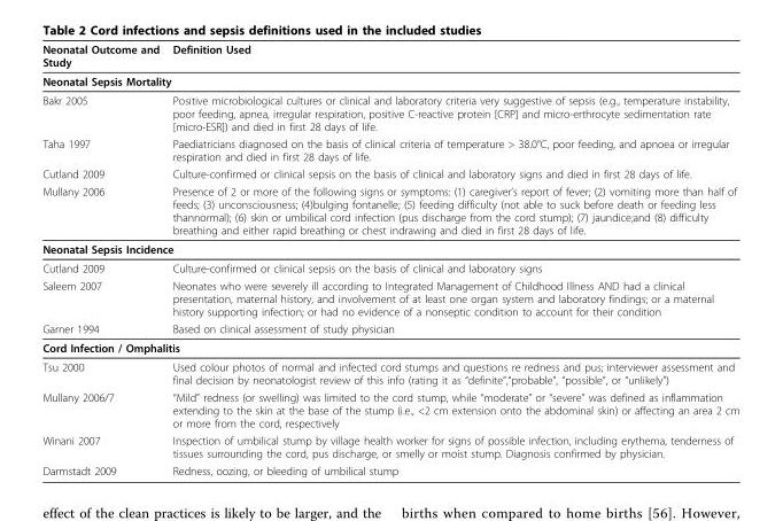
<table><thead><tr><td>Neonatal Outcome and Study</td><td>Definition Used</td></tr></thead><tbody><tr><td colspan="2">Neonatal Sepsis Mortality</td></tr><tr><td>Bakr 2005</td><td>Positive microbiological cultures or clinical and laboratory criteria very suggestive of sepsis (e.g., temperature instability, poor feeding, apnea, irregular respiration, positive C-reactive protein [CRP] and micro-erthrocyte sedimentation rate [micro-ESR]) and died in first 28 days of life.</td></tr><tr><td>Taha 1997</td><td>Paediatricians diagnosed on the basis of clinical criteria of temperature &gt; 38.0°C, poor feeding, and apnoea or irregular respiration and died in first 28 days of life.</td></tr><tr><td>Cutland 2009</td><td>Culture-confirmed or clinical sepsis on the basis of clinical and laboratory signs and died in first 28 days of life.</td></tr><tr><td>Mullany 2006</td><td>Presence of 2 or more of the following signs or symptoms: (1) caregiver’s report of fever; (2) vomiting more than half of feeds; (3) unconsciousness; (4)bulging fontanelle; (5) feeding difficulty (not able to suck before death or feeding less thannormal); (6) skin or umbilical cord infection (pus discharge from the cord stump); (7) jaundice;and (8) difficulty breathing and either rapid breathing or chest indrawing and died in first 28 days of life.</td></tr><tr><td colspan="2">Neonatal Sepsis Incidence</td></tr><tr><td>Cutland 2009</td><td>Culture-confirmed or clinical sepsis on the basis of clinical and laboratory signs</td></tr><tr><td>Saleem 2007</td><td>Neonates who were severely ill according to Integrated Management of Childhood Illness AND had a clinical presentation, maternal history, and involvement of at least one organ system and laboratory findings; or a maternal history supporting infection; or had no evidence of a nonseptic condition to account for their condition</td></tr><tr><td>Garner 1994</td><td>Based on clinical assessment of study physician</td></tr><tr><td colspan="2">Cord Infection / Omphalitis</td></tr><tr><td>Tsu 2000</td><td>Used colour photos of normal and infected cord stumps and questions re redness and pus; interviewer assessment and final decision by neonatologist review of this info (rating it as “definite”,“probable”, “possible”, or “unlikely”)</td></tr><tr><td>Mullany 2006/7</td><td>“Mild” redness (or swelling) was limited to the cord stump, while “moderate” or “severe” was defined as inflammation extending to the skin at the base of the stump (i.e., &lt;2 cm extension onto the abdominal skin) or affecting an area 2 cm or more from the cord, respectively</td></tr><tr><td>Winani 2007</td><td>Inspection of umbilical stump by village health worker for signs of possible infection, including erythema, tenderness of tissues surrounding the cord, pus discharge, or smelly or moist stump. Diagnosis confirmed by physician.</td></tr><tr><td>Darmstadt 2009</td><td>Redness, oozing, or bleeding of umbilical stump</td></tr></tbody></table>